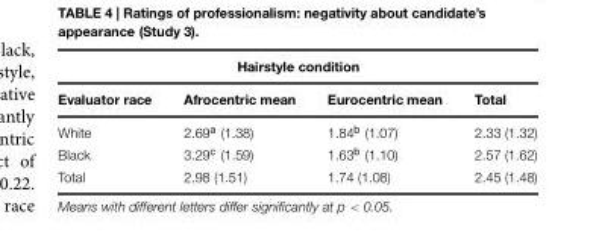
<table><thead><tr><td colspan="4">Hairstyle condition</td></tr><tr><td>Evaluator race</td><td>Afrocentric mean</td><td>Eurocentric mean</td><td>Total</td></tr></thead><tbody><tr><td>White</td><td>2.69<sup>a</sup> (1.38)</td><td>1.84<sup>b</sup> (1.07)</td><td>2.33 (1.32)</td></tr><tr><td>Black</td><td>3.29<sup>c</sup> (1.59)</td><td>1.63<sup>b</sup> (1.10)</td><td>2.57 (1.62)</td></tr><tr><td>Total</td><td>2.98 (1.51)</td><td>1.74 (1.08)</td><td>2.45 (1.48)</td></tr></tbody></table>